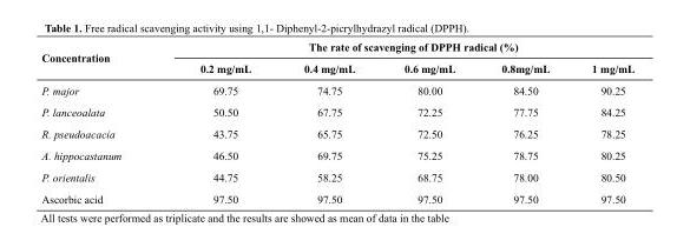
<table><thead><tr><td rowspan="2">Concentration</td><td colspan="5">The rate of scavenging of DPPH radical (%)</td></tr><tr><td>0.2 mg/mL</td><td>0.4 mg/mL</td><td>0.6 mg/mL</td><td>0.8mg/mL</td><td>1 mg/mL</td></tr></thead><tbody><tr><td>P. major</td><td>69.75</td><td>74.75</td><td>80.00</td><td>84.50</td><td>90.25</td></tr><tr><td>P. lanceoalata</td><td>50.50</td><td>67.75</td><td>72.25</td><td>77.75</td><td>84.25</td></tr><tr><td>R. pseudoacacia</td><td>43.75</td><td>65.75</td><td>72.50</td><td>76.25</td><td>78.25</td></tr><tr><td>A. hippocastanum</td><td>46.50</td><td>69.75</td><td>75.25</td><td>78.75</td><td>80.25</td></tr><tr><td>P. orientalis</td><td>44.75</td><td>58.25</td><td>68.75</td><td>78.00</td><td>80.50</td></tr><tr><td>Ascorbic acid</td><td>97.50</td><td>97.50</td><td>97.50</td><td>97.50</td><td>97.50</td></tr></tbody></table>